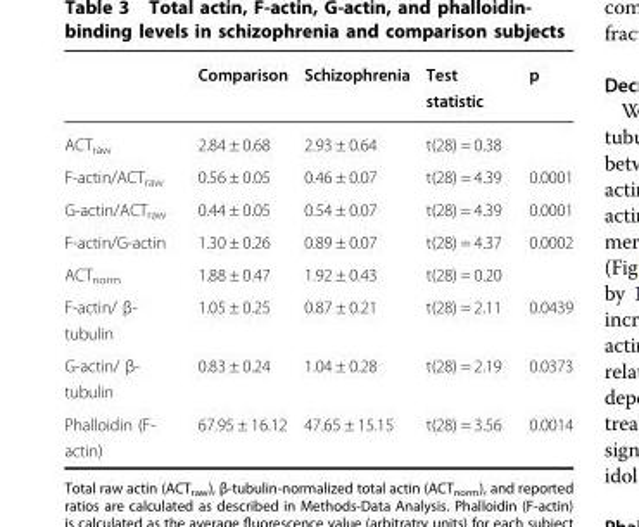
<table><thead><tr><td></td><td>Comparison</td><td>Schizophrenia</td><td>Test statistic</td><td>p</td></tr></thead><tbody><tr><td>ACT<sub>raw</sub></td><td>2.84 ± 0.68</td><td>2.93 ± 0.64</td><td>t(28) = 0.38</td><td></td></tr><tr><td>F-actin/ACT<sub>raw</sub></td><td>0.56 ± 0.05</td><td>0.46 ± 0.07</td><td>t(28) = 4.39</td><td>0.0001</td></tr><tr><td>G-actin/ACT<sub>raw</sub></td><td>0.44 ± 0.05</td><td>0.54 ± 0.07</td><td>t(28) = 4.39</td><td>0.0001</td></tr><tr><td>F-actin/G-actin</td><td>1.30 ± 0.26</td><td>0.89 ± 0.07</td><td>t(28) = 4.37</td><td>0.0002</td></tr><tr><td>ACT<sub>norm</sub></td><td>1.88 ± 0.47</td><td>1.92 ± 0.43</td><td>t(28) = 0.20</td><td></td></tr><tr><td>F-actin/ β- tubulin</td><td>1.05 ± 0.25</td><td>0.87 ± 0.21</td><td>t(28) = 2.11</td><td>0.0439</td></tr><tr><td>G-actin/ β- tubulin</td><td>0.83 ± 0.24</td><td>1.04 ± 0.28</td><td>t(28) = 2.19</td><td>0.0373</td></tr><tr><td>Phalloidin (F- actin)</td><td>67.95 ± 16.12</td><td>47.65 ± 15.15</td><td>t(28) = 3.56</td><td>0.0014</td></tr></tbody></table>